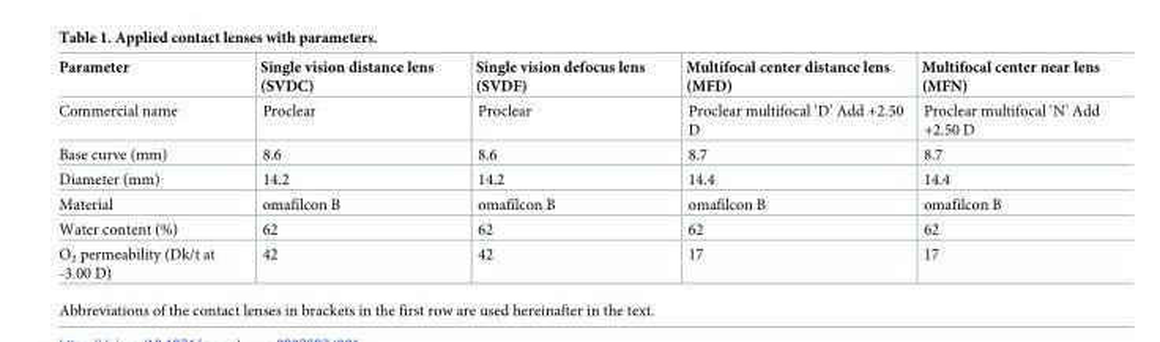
<table><thead><tr><td>Parameter</td><td>Single vision distance lens (SVDC)</td><td>Single vision defocus lens (SVDF)</td><td>Multifocal center distance lens (MFD)</td><td>Multifocal center near lens (MFN)</td></tr></thead><tbody><tr><td>Commercial name</td><td>Proclear</td><td>Proclear</td><td>Proclear multifocal ‘D’ Add +2.50 D</td><td>Proclear multifocal ‘N’ Add +2.50 D</td></tr><tr><td>Base curve (mm)</td><td>8.6</td><td>8.6</td><td>8.7</td><td>8.7</td></tr><tr><td>Diameter (mm)</td><td>14.2</td><td>14.2</td><td>14.4</td><td>14.4</td></tr><tr><td>Material</td><td>omafilcon B</td><td>omafilcon B</td><td>omafilcon B</td><td>omafilcon B</td></tr><tr><td>Water content (%)</td><td>62</td><td>62</td><td>62</td><td>62</td></tr><tr><td>O<sub>2</sub> permeability (Dk/t at -3.00 D)</td><td>42</td><td>42</td><td>17</td><td>17</td></tr></tbody></table>